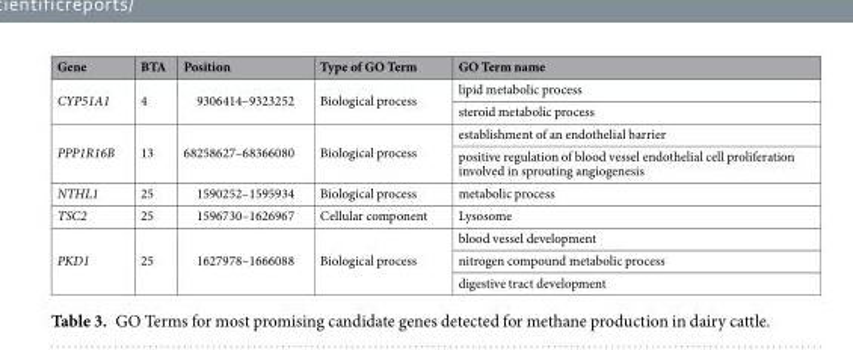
<table><thead><tr><td>Gene</td><td>BTA</td><td>Position</td><td>Type of GO Term</td><td>GO Term name</td></tr></thead><tbody><tr><td rowspan="2">CYP51A1</td><td rowspan="2">4</td><td rowspan="2">9306414–9323252</td><td rowspan="2">Biological process</td><td>lipid metabolic process</td></tr><tr><td>steroid metabolic process</td></tr><tr><td rowspan="2">PPP1R16B</td><td rowspan="2">13</td><td rowspan="2">68258627–68366080</td><td rowspan="2">Biological process</td><td>establishment of an endothelial barrier</td></tr><tr><td>positive regulation of blood vessel endothelial cell proliferation involved in sprouting angiogenesis</td></tr><tr><td>NTHL1</td><td>25</td><td>1590252–1595934</td><td>Biological process</td><td>metabolic process</td></tr><tr><td>TSC2</td><td>25</td><td>1596730–1626967</td><td>Cellular component</td><td>Lysosome</td></tr><tr><td rowspan="3">PKD1</td><td rowspan="3">25</td><td rowspan="3">1627978–1666088</td><td rowspan="3">Biological process</td><td>blood vessel development</td></tr><tr><td>nitrogen compound metabolic process</td></tr><tr><td>digestive tract development</td></tr></tbody></table>